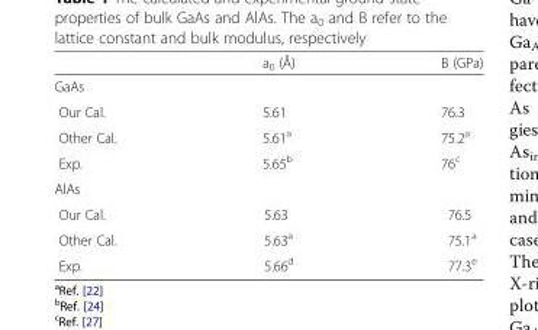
<table><thead><tr><td></td><td>a<sub>0</sub> (Å)</td><td>B (GPa)</td></tr></thead><tbody><tr><td colspan="3">GaAs</td></tr><tr><td>Our Cal.</td><td>5.61</td><td>76.3</td></tr><tr><td>Other Cal.</td><td>5.61<sup>a</sup></td><td>75.2<sup>a</sup></td></tr><tr><td>Exp.</td><td>5.65<sup>b</sup></td><td>76<sup>c</sup></td></tr><tr><td colspan="3">AlAs</td></tr><tr><td>Our Cal.</td><td>5.63</td><td>76.5</td></tr><tr><td>Other Cal.</td><td>5.63<sup>a</sup></td><td>75.1<sup>a</sup></td></tr><tr><td>Exp.</td><td>5.66<sup>d</sup></td><td>77.3<sup>e</sup></td></tr></tbody></table>